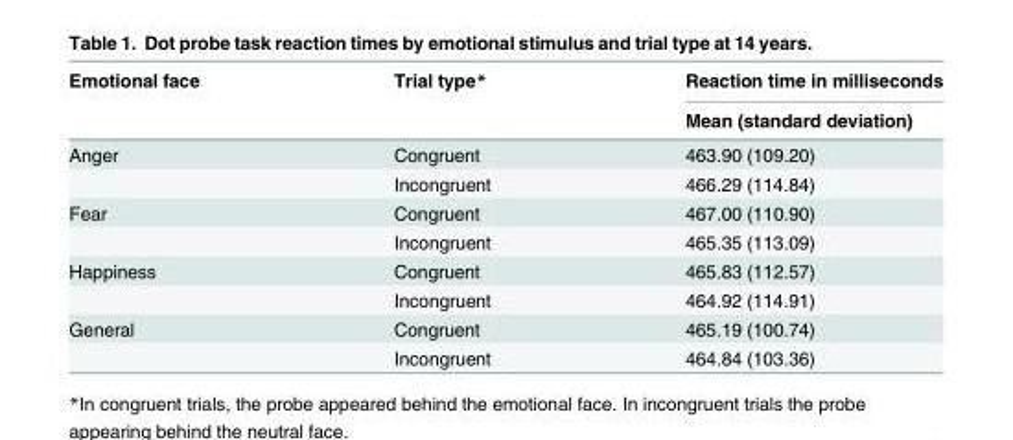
<table><thead><tr><td rowspan="2">Emotional face</td><td rowspan="2">Trial type*</td><td rowspan="2">Reaction time in milliseconds Mean (standard deviation)</td></tr><tr></tr></thead><tbody><tr><td rowspan="2">Anger</td><td>Congruent</td><td>463.90 (109.20)</td></tr><tr><td>Incongruent</td><td>466.29 (114.84)</td></tr><tr><td rowspan="2">Fear</td><td>Congruent</td><td>467.00 (110.90)</td></tr><tr><td>Incongruent</td><td>465.35 (113.09)</td></tr><tr><td rowspan="2">Happiness</td><td>Congruent</td><td>465.83 (112.57)</td></tr><tr><td>Incongruent</td><td>464.92 (114.91)</td></tr><tr><td rowspan="2">General</td><td>Congruent</td><td>465.19 (100.74)</td></tr><tr><td>Incongruent</td><td>464.84 (103.36)</td></tr></tbody></table>